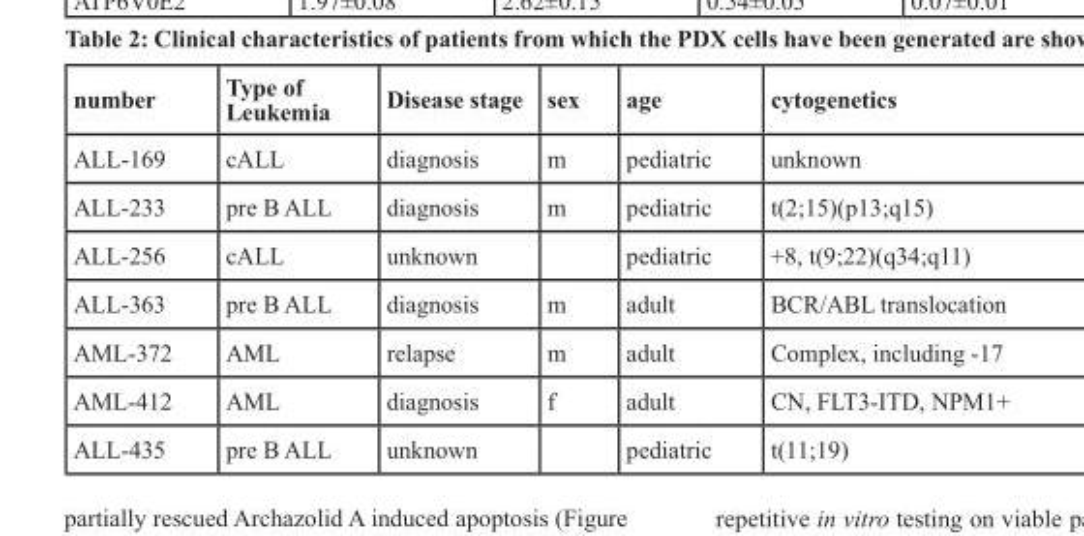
<table><thead><tr><td>number</td><td>Type of Leukemia</td><td>Disease stage</td><td>sex</td><td>age</td><td>cytogenetics</td></tr></thead><tbody><tr><td>ALL-169</td><td>cALL</td><td>diagnosis</td><td>m</td><td>pediatric</td><td>unknown</td></tr><tr><td>ALL-233</td><td>pre B ALL</td><td>diagnosis</td><td>m</td><td>pediatric</td><td>t(2;15)(p13;q15)</td></tr><tr><td>ALL-256</td><td>cALL</td><td>unknown</td><td></td><td>pediatric</td><td>+8, t(9;22)(q34;q11)</td></tr><tr><td>ALL-363</td><td>pre B ALL</td><td>diagnosis</td><td>m</td><td>adult</td><td>BCR/ABL translocation</td></tr><tr><td>AML-372</td><td>AML</td><td>relapse</td><td>m</td><td>adult</td><td>Complex, including -17</td></tr><tr><td>AML-412</td><td>AML</td><td>diagnosis</td><td>f</td><td>adult</td><td>CN, FLT3-ITD, NPM1+</td></tr><tr><td>ALL-435</td><td>pre B ALL</td><td>unknown</td><td></td><td>pediatric</td><td>t(11;19)</td></tr></tbody></table>